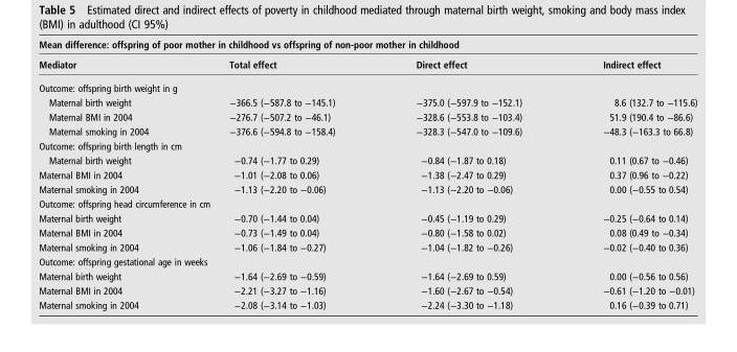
<table><thead><tr><td colspan="4">Mean difference: offspring of poor mother in childhood vs offspring of non-poor mother in childhood</td></tr><tr><td>Mediator</td><td>Total effect</td><td>Direct effect</td><td>Indirect effect</td></tr></thead><tbody><tr><td colspan="4">Outcome: offspring birth weight in g</td></tr><tr><td>Maternal birth weight</td><td>−366.5 (−587.8 to −145.1)</td><td>−375.0 (−597.9 to −152.1)</td><td>8.6 (132.7 to −115.6)</td></tr><tr><td>Maternal BMI in 2004</td><td>−276.7 (−507.2 to −46.1)</td><td>−328.6 (−553.8 to −103.4)</td><td>51.9 (190.4 to −86.6)</td></tr><tr><td>Maternal smoking in 2004</td><td>−376.6 (−594.8 to −158.4)</td><td>−328.3 (−547.0 to −109.6)</td><td>−48.3 (−163.3 to 66.8)</td></tr><tr><td colspan="4">Outcome: offspring birth length in cm</td></tr><tr><td>Maternal birth weight</td><td>−0.74 (−1.77 to 0.29)</td><td>−0.84 (−1.87 to 0.18)</td><td>0.11 (0.67 to −0.46)</td></tr><tr><td>Maternal BMI in 2004</td><td>−1.01 (−2.08 to 0.06)</td><td>−1.38 (−2.47 to 0.29)</td><td>0.37 (0.96 to −0.22)</td></tr><tr><td>Maternal smoking in 2004</td><td>−1.13 (−2.20 to −0.06)</td><td>−1.13 (−2.20 to −0.06)</td><td>0.00 (−0.55 to 0.54)</td></tr><tr><td colspan="4">Outcome: offspring head circumference in cm</td></tr><tr><td>Maternal birth weight</td><td>−0.70 (−1.44 to 0.04)</td><td>−0.45 (−1.19 to 0.29)</td><td>−0.25 (−0.64 to 0.14)</td></tr><tr><td>Maternal BMI in 2004</td><td>−0.73 (−1.49 to 0.04)</td><td>−0.80 (−1.58 to 0.02)</td><td>0.08 (0.49 to −0.34)</td></tr><tr><td>Maternal smoking in 2004</td><td>−1.06 (−1.84 to −0.27)</td><td>−1.04 (−1.82 to −0.26)</td><td>−0.02 (−0.40 to 0.36)</td></tr><tr><td colspan="4">Outcome: offspring gestational age in weeks</td></tr><tr><td>Maternal birth weight</td><td>−1.64 (−2.69 to −0.59)</td><td>−1.64 (−2.69 to 0.59)</td><td>0.00 (−0.56 to 0.56)</td></tr><tr><td>Maternal BMI in 2004</td><td>−2.21 (−3.27 to −1.16)</td><td>−1.60 (−2.67 to −0.54)</td><td>−0.61 (−1.20 to −0.01)</td></tr><tr><td>Maternal smoking in 2004</td><td>−2.08 (−3.14 to −1.03)</td><td>−2.24 (−3.30 to −1.18)</td><td>0.16 (−0.39 to 0.71)</td></tr></tbody></table>